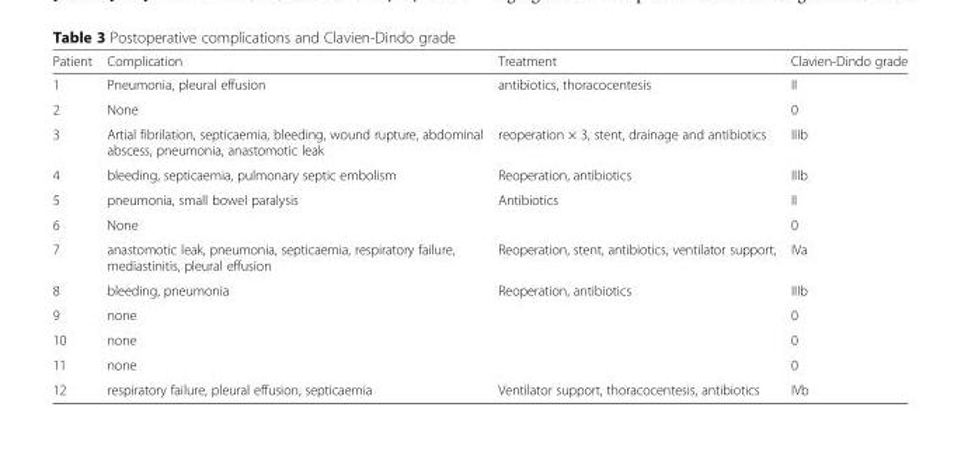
<table><thead><tr><td>Patient</td><td>Complication</td><td>Treatment</td><td>Clavien-Dindo grade</td></tr></thead><tbody><tr><td>1</td><td>Pneumonia, pleural effusion</td><td>antibiotics, thoracocentesis</td><td>II</td></tr><tr><td>2</td><td>None</td><td></td><td>0</td></tr><tr><td>3</td><td>Artial fibrilation, septicaemia, bleeding, wound rupture, abdominal abscess, pneumonia, anastomotic leak</td><td>reoperation × 3, stent, drainage and antibiotics</td><td>IIIb</td></tr><tr><td>4</td><td>bleeding, septicaemia, pulmonary septic embolism</td><td>Reoperation, antibiotics</td><td>IIIb</td></tr><tr><td>5</td><td>pneumonia, small bowel paralysis</td><td>Antibiotics</td><td>II</td></tr><tr><td>6</td><td>None</td><td></td><td>0</td></tr><tr><td>7</td><td>anastomotic leak, pneumonia, septicaemia, respiratory failure, mediastinitis, pleural effusion</td><td>Reoperation, stent, antibiotics, ventilator support,</td><td>IVa</td></tr><tr><td>8</td><td>bleeding, pneumonia</td><td>Reoperation, antibiotics</td><td>IIIb</td></tr><tr><td>9</td><td>none</td><td></td><td>0</td></tr><tr><td>10</td><td>none</td><td></td><td>0</td></tr><tr><td>11</td><td>none</td><td></td><td>0</td></tr><tr><td>12</td><td>respiratory failure, pleural effusion, septicaemia</td><td>Ventilator support, thoracocentesis, antibiotics</td><td>IVb</td></tr></tbody></table>